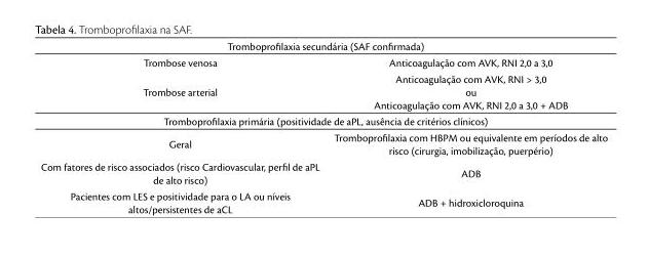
<table><thead><tr><td colspan="2">Tromboprofilaxia secundária (SAF confirmada)</td></tr><tr><td>Trombose venosa</td><td>Anticoagulação com AVK, RNI 2,0 a 3,0</td></tr></thead><tbody><tr><td>Trombose arterial</td><td>Anticoagulação com AVK, RNI &gt; 3,0 ou Anticoagulação com AVK, RNI 2,0 a 3,0 + ADB</td></tr><tr><td colspan="2">Tromboprofilaxia primária (positividade de aPL, ausência de critérios clínicos)</td></tr><tr><td>Geral</td><td>Tromboprofilaxia com HBPM ou equivalente em períodos de alto risco (cirurgia, imobilização, puerpério)</td></tr><tr><td>Com fatores de risco associados (risco Cardiovascular, perfil de aPL de alto risco)</td><td>ADB</td></tr><tr><td>Pacientes com LES e positividade para o LA ou níveis altos/persistentes de aCL</td><td>ADB + hidroxicloroquina</td></tr></tbody></table>